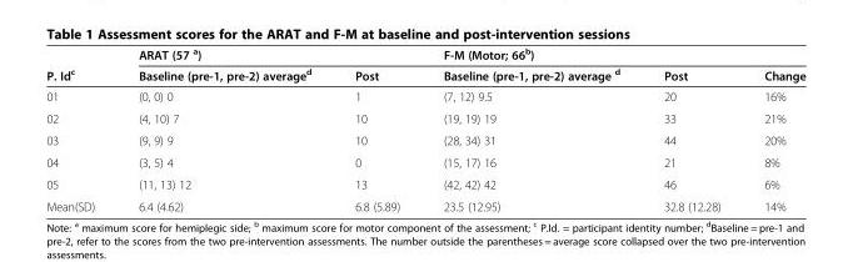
<table><thead><tr><td rowspan="2">P. Id<sup>c</sup></td><td rowspan="2">ARAT (57 <sup>a</sup>) Baseline (pre-1, pre-2) average<sup>d</sup></td><td rowspan="2">Post</td><td rowspan="2">F-M (Motor; 66<sup>b</sup>) Baseline (pre-1, pre-2) average <sup>d</sup></td><td rowspan="2">Post</td><td rowspan="2">Change</td></tr><tr></tr></thead><tbody><tr><td>01</td><td>(0, 0) 0</td><td>1</td><td>(7, 12) 9.5</td><td>20</td><td>16%</td></tr><tr><td>02</td><td>(4, 10) 7</td><td>10</td><td>(19, 19) 19</td><td>33</td><td>21%</td></tr><tr><td>03</td><td>(9, 9) 9</td><td>10</td><td>(28, 34) 31</td><td>44</td><td>20%</td></tr><tr><td>04</td><td>(3, 5) 4</td><td>0</td><td>(15, 17) 16</td><td>21</td><td>8%</td></tr><tr><td>05</td><td>(11, 13) 12</td><td>13</td><td>(42, 42) 42</td><td>46</td><td>6%</td></tr><tr><td>Mean(SD)</td><td>6.4 (4.62)</td><td>6.8 (5.89)</td><td>23.5 (12.95)</td><td>32.8 (12.28)</td><td>14%</td></tr></tbody></table>